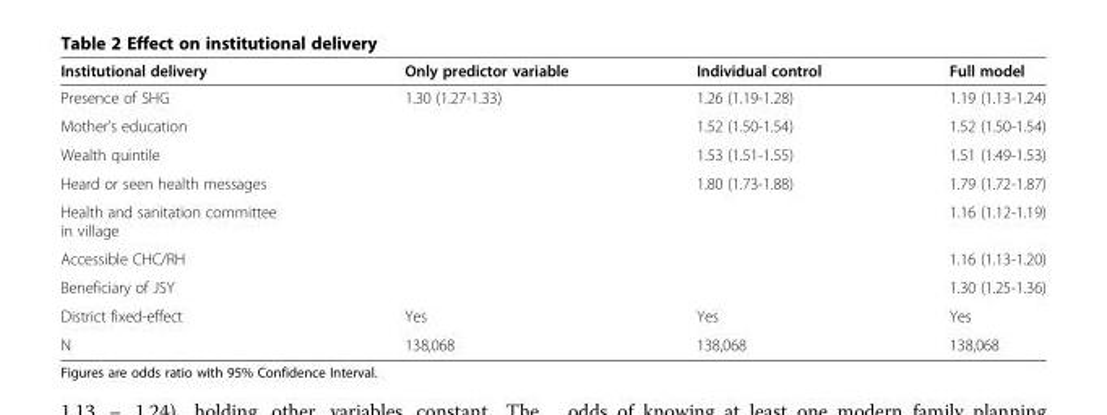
<table><thead><tr><td>Institutional delivery</td><td>Only predictor variable</td><td>Individual control</td><td>Full model</td></tr></thead><tbody><tr><td>Presence of SHG</td><td>1.30 (1.27-1.33)</td><td>1.26 (1.19-1.28)</td><td>1.19 (1.13-1.24)</td></tr><tr><td>Mother’s education</td><td></td><td>1.52 (1.50-1.54)</td><td>1.52 (1.50-1.54)</td></tr><tr><td>Wealth quintile</td><td></td><td>1.53 (1.51-1.55)</td><td>1.51 (1.49-1.53)</td></tr><tr><td>Heard or seen health messages</td><td></td><td>1.80 (1.73-1.88)</td><td>1.79 (1.72-1.87)</td></tr><tr><td>Health and sanitation committee in village</td><td></td><td></td><td>1.16 (1.12-1.19)</td></tr><tr><td>Accessible CHC/RH</td><td></td><td></td><td>1.16 (1.13-1.20)</td></tr><tr><td>Beneficiary of JSY</td><td></td><td></td><td>1.30 (1.25-1.36)</td></tr><tr><td>District fixed-effect</td><td>Yes</td><td>Yes</td><td>Yes</td></tr><tr><td>N</td><td>138,068</td><td>138,068</td><td>138,068</td></tr></tbody></table>